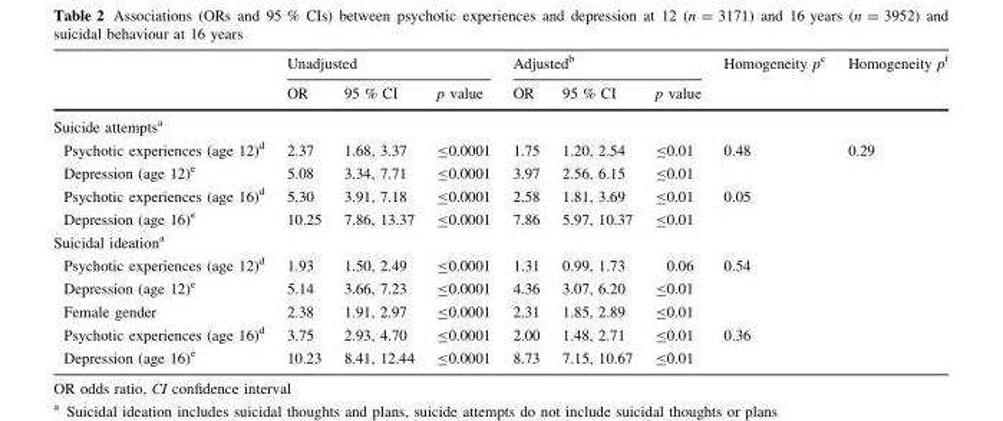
<table><thead><tr><td rowspan="2"></td><td colspan="3">Unadjusted</td><td colspan="3">Adjusted<sup>b</sup></td><td rowspan="2">Homogeneity p<sup>c</sup></td><td rowspan="2">Homogeneity p<sup>f</sup></td></tr><tr><td>OR</td><td>95 % CI</td><td>p value</td><td>OR</td><td>95 % CI</td><td>p value</td></tr></thead><tbody><tr><td colspan="9">Suicide attempts<sup>a</sup></td></tr><tr><td>Psychotic experiences (age 12)<sup>d</sup></td><td>2.37</td><td>1.68, 3.37</td><td>≤0.0001</td><td>1.75</td><td>1.20, 2.54</td><td>≤0.01</td><td>0.48</td><td>0.29</td></tr><tr><td>Depression (age 12)<sup>e</sup></td><td>5.08</td><td>3.34, 7.71</td><td>≤0.0001</td><td>3.97</td><td>2.56, 6.15</td><td>≤0.01</td><td></td><td></td></tr><tr><td>Psychotic experiences (age 16)<sup>d</sup></td><td>5.30</td><td>3.91, 7.18</td><td>≤0.0001</td><td>2.58</td><td>1.81, 3.69</td><td>≤0.01</td><td>0.05</td><td></td></tr><tr><td>Depression (age 16)<sup>e</sup></td><td>10.25</td><td>7.86, 13.37</td><td>≤0.0001</td><td>7.86</td><td>5.97, 10.37</td><td>≤0.01</td><td></td><td></td></tr><tr><td colspan="9">Suicidal ideation<sup>a</sup></td></tr><tr><td>Psychotic experiences (age 12)<sup>d</sup></td><td>1.93</td><td>1.50, 2.49</td><td>≤0.0001</td><td>1.31</td><td>0.99, 1.73</td><td>0.06</td><td>0.54</td><td></td></tr><tr><td>Depression (age 12)<sup>e</sup></td><td>5.14</td><td>3.66, 7.23</td><td>≤0.0001</td><td>4.36</td><td>3.07, 6.20</td><td>≤0.01</td><td></td><td></td></tr><tr><td>Female gender</td><td>2.38</td><td>1.91, 2.97</td><td>≤0.0001</td><td>2.31</td><td>1.85, 2.89</td><td>≤0.01</td><td></td><td></td></tr><tr><td>Psychotic experiences (age 16)<sup>d</sup></td><td>3.75</td><td>2.93, 4.70</td><td>≤0.0001</td><td>2.00</td><td>1.48, 2.71</td><td>≤0.01</td><td>0.36</td><td></td></tr><tr><td>Depression (age 16)<sup>e</sup></td><td>10.23</td><td>8.41, 12.44</td><td>≤0.0001</td><td>8.73</td><td>7.15, 10.67</td><td>≤0.01</td><td></td><td></td></tr></tbody></table>